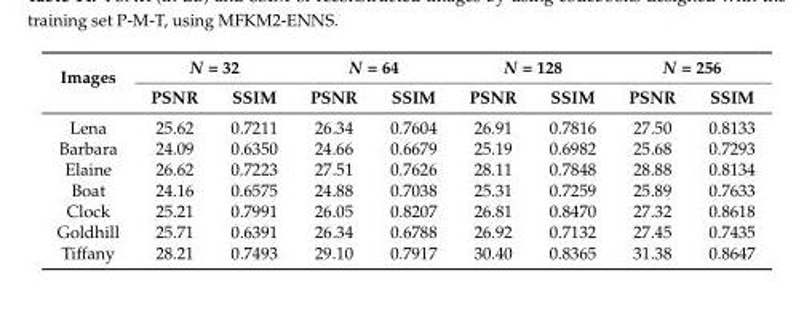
<table><thead><tr><td rowspan="2">Images</td><td colspan="2">N = 32</td><td colspan="2">N = 64</td><td colspan="2">N = 128</td><td colspan="2">N = 256</td></tr><tr><td>PSNR</td><td>SSIM</td><td>PSNR</td><td>SSIM</td><td>PSNR</td><td>SSIM</td><td>PSNR</td><td>SSIM</td></tr></thead><tbody><tr><td>Lena</td><td>25.62</td><td>0.7211</td><td>26.34</td><td>0.7604</td><td>26.91</td><td>0.7816</td><td>27.50</td><td>0.8133</td></tr><tr><td>Barbara</td><td>24.09</td><td>0.6350</td><td>24.66</td><td>0.6679</td><td>25.19</td><td>0.6982</td><td>25.68</td><td>0.7293</td></tr><tr><td>Elaine</td><td>26.62</td><td>0.7223</td><td>27.51</td><td>0.7626</td><td>28.11</td><td>0.7848</td><td>28.88</td><td>0.8134</td></tr><tr><td>Boat</td><td>24.16</td><td>0.6575</td><td>24.88</td><td>0.7038</td><td>25.31</td><td>0.7259</td><td>25.89</td><td>0.7633</td></tr><tr><td>Clock</td><td>25.21</td><td>0.7991</td><td>26.05</td><td>0.8207</td><td>26.81</td><td>0.8470</td><td>27.32</td><td>0.8618</td></tr><tr><td>Goldhill</td><td>25.71</td><td>0.6391</td><td>26.34</td><td>0.6788</td><td>26.92</td><td>0.7132</td><td>27.45</td><td>0.7435</td></tr><tr><td>Tiffany</td><td>28.21</td><td>0.7493</td><td>29.10</td><td>0.7917</td><td>30.40</td><td>0.8365</td><td>31.38</td><td>0.8647</td></tr></tbody></table>